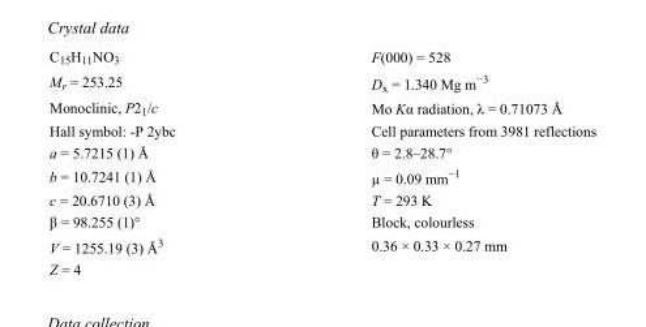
<table><tbody><tr><td>C<sub>15</sub>H<sub>11</sub>NO<sub>3</sub></td><td>F(000) = 528</td></tr><tr><td>M<sub>r</sub> = 253.25</td><td>D<sub>x</sub> = 1.340 Mg m<sup>−3</sup></td></tr><tr><td>Monoclinic, P2<sub>1</sub>/c</td><td>Mo Kα radiation, λ = 0.71073 Å</td></tr><tr><td>Hall symbol: -P 2ybc</td><td>Cell parameters from 3981 reflections</td></tr><tr><td>a = 5.7215 (1) Å</td><td>θ = 2.8–28.7°</td></tr><tr><td>b = 10.7241 (1) Å</td><td>µ = 0.09 mm<sup>−1</sup></td></tr><tr><td>c = 20.6710 (3) Å</td><td>T = 293 K</td></tr><tr><td>β = 98.255 (1)°</td><td>Block, colourless</td></tr><tr><td>V = 1255.19 (3) Å<sup>3</sup></td><td>0.36 × 0.33 × 0.27 mm</td></tr><tr><td>Z = 4</td><td></td></tr></tbody></table>